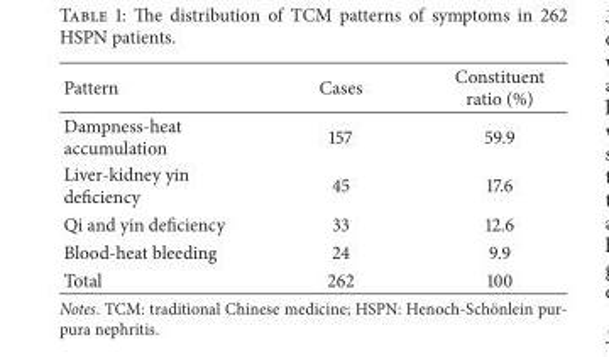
<table><thead><tr><td>Pattern</td><td>Cases</td><td>Constituent ratio (%)</td></tr></thead><tbody><tr><td>Dampness-heat accumulation</td><td>157</td><td>59.9</td></tr><tr><td>Liver-kidney yin deficiency</td><td>45</td><td>17.6</td></tr><tr><td>Qi and yin deficiency</td><td>33</td><td>12.6</td></tr><tr><td>Blood-heat bleeding</td><td>24</td><td>9.9</td></tr><tr><td>Total</td><td>262</td><td>100</td></tr></tbody></table>